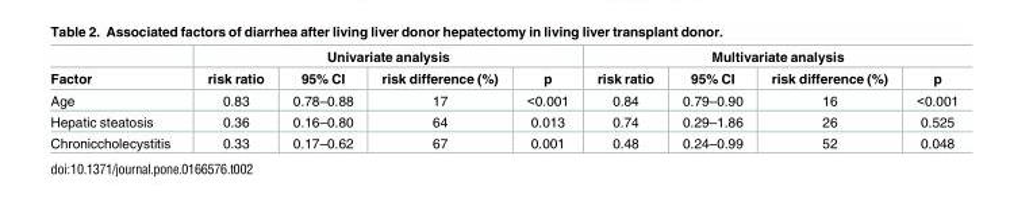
<table><thead><tr><td rowspan="2">Factor</td><td colspan="4">Univariate analysis</td><td colspan="4">Multivariate analysis</td></tr><tr><td>risk ratio</td><td>95% CI</td><td>risk difference (%)</td><td>p</td><td>risk ratio</td><td>95% CI</td><td>risk difference (%)</td><td>p</td></tr></thead><tbody><tr><td>Age</td><td>0.83</td><td>0.78–0.88</td><td>17</td><td>&lt;0.001</td><td>0.84</td><td>0.79–0.90</td><td>16</td><td>&lt;0.001</td></tr><tr><td>Hepatic steatosis</td><td>0.36</td><td>0.16–0.80</td><td>64</td><td>0.013</td><td>0.74</td><td>0.29–1.86</td><td>26</td><td>0.525</td></tr><tr><td>Chroniccholecystitis</td><td>0.33</td><td>0.17–0.62</td><td>67</td><td>0.001</td><td>0.48</td><td>0.24–0.99</td><td>52</td><td>0.048</td></tr></tbody></table>